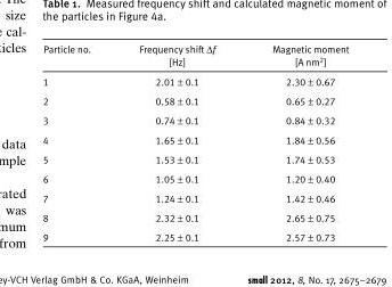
<table><thead><tr><td>Particle no.</td><td>Frequency shift Δ f [Hz]</td><td>Magnetic moment [A nm <sup>2</sup> ]</td></tr></thead><tbody><tr><td>1</td><td>2.01 ± 0.1</td><td>2.30 ± 0.67</td></tr><tr><td>2</td><td>0.58 ± 0.1</td><td>0.65 ± 0.27</td></tr><tr><td>3</td><td>0.74 ± 0.1</td><td>0.84 ± 0.32</td></tr><tr><td>4</td><td>1.65 ± 0.1</td><td>1.84 ± 0.56</td></tr><tr><td>5</td><td>1.53 ± 0.1</td><td>1.74 ± 0.53</td></tr><tr><td>6</td><td>1.05 ± 0.1</td><td>1.20 ± 0.40</td></tr><tr><td>7</td><td>1.24 ± 0.1</td><td>1.42 ± 0.46</td></tr><tr><td>8</td><td>2.32 ± 0.1</td><td>2.65 ± 0.75</td></tr><tr><td>9</td><td>2.25 ± 0.1</td><td>2.57 ± 0.73</td></tr></tbody></table>